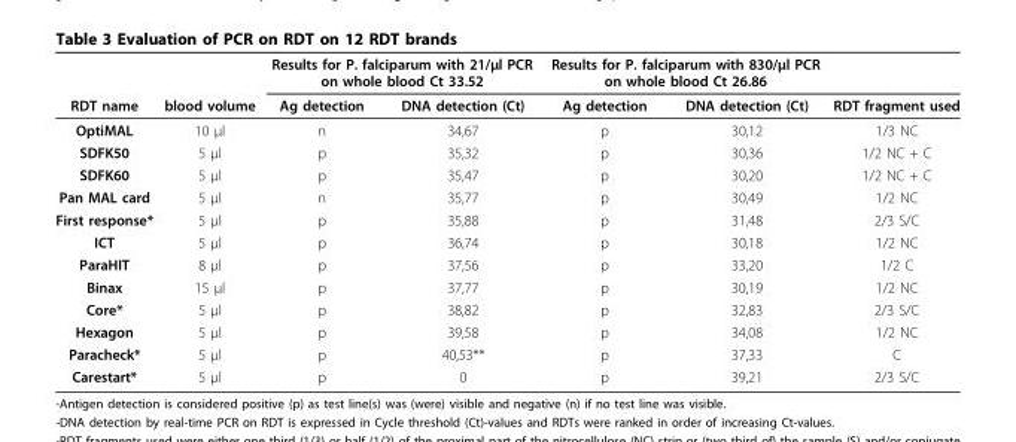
<table><thead><tr><td rowspan="2">RDT name</td><td rowspan="2">blood volume</td><td colspan="2">Results for P. falciparum with 21/μl PCR on whole blood Ct 33.52</td><td colspan="2">Results for P. falciparum with 830/μl PCR on whole blood Ct 26.86</td><td rowspan="2">RDT fragment used</td></tr><tr><td>Ag detection</td><td>DNA detection (Ct)</td><td>Ag detection</td><td>DNA detection (Ct)</td></tr></thead><tbody><tr><td>OptiMAL</td><td>10 μl</td><td>n</td><td>34,67</td><td>p</td><td>30,12</td><td>1/3 NC</td></tr><tr><td>SDFK50</td><td>5 μl</td><td>p</td><td>35,32</td><td>p</td><td>30,36</td><td>1/2 NC + C</td></tr><tr><td>SDFK60</td><td>5 μl</td><td>p</td><td>35,47</td><td>p</td><td>30,20</td><td>1/2 NC + C</td></tr><tr><td>Pan MAL card</td><td>5 μl</td><td>n</td><td>35,77</td><td>p</td><td>30,49</td><td>1/2 NC</td></tr><tr><td>First response*</td><td>5 μl</td><td>p</td><td>35,88</td><td>p</td><td>31,48</td><td>2/3 S/C</td></tr><tr><td>ICT</td><td>5 μl</td><td>p</td><td>36,74</td><td>p</td><td>30,18</td><td>1/2 NC</td></tr><tr><td>ParaHIT</td><td>8 μl</td><td>p</td><td>37,56</td><td>p</td><td>33,20</td><td>1/2 C</td></tr><tr><td>Binax</td><td>15 μl</td><td>p</td><td>37,77</td><td>p</td><td>30,19</td><td>1/2 NC</td></tr><tr><td>Core*</td><td>5 μl</td><td>p</td><td>38,82</td><td>p</td><td>32,83</td><td>2/3 S/C</td></tr><tr><td>Hexagon</td><td>5 μl</td><td>p</td><td>39,58</td><td>p</td><td>34,08</td><td>1/2 NC</td></tr><tr><td>Paracheck*</td><td>5 μl</td><td>p</td><td>40,53**</td><td>p</td><td>37,33</td><td>C</td></tr><tr><td>Carestart*</td><td>5 μl</td><td>p</td><td>0</td><td>p</td><td>39,21</td><td>2/3 S/C</td></tr></tbody></table>